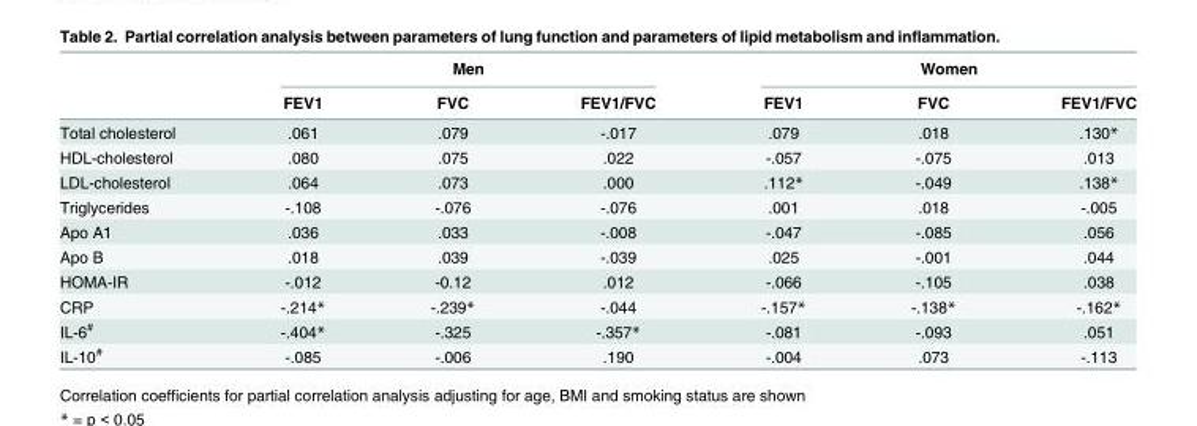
<table><thead><tr><td rowspan="2"></td><td colspan="3">Men</td><td colspan="3">Women</td></tr><tr><td>FEV1</td><td>FVC</td><td>FEV1/FVC</td><td>FEV1</td><td>FVC</td><td>FEV1/FVC</td></tr></thead><tbody><tr><td>Total cholesterol</td><td>.061</td><td>.079</td><td>-.017</td><td>.079</td><td>.018</td><td>.130*</td></tr><tr><td>HDL-cholesterol</td><td>.080</td><td>.075</td><td>.022</td><td>-.057</td><td>-.075</td><td>.013</td></tr><tr><td>LDL-cholesterol</td><td>.064</td><td>.073</td><td>.000</td><td>.112*</td><td>-.049</td><td>.138*</td></tr><tr><td>Triglycerides</td><td>-.108</td><td>-.076</td><td>-.076</td><td>.001</td><td>.018</td><td>-.005</td></tr><tr><td>Apo A1</td><td>.036</td><td>.033</td><td>-.008</td><td>-.047</td><td>-.085</td><td>.056</td></tr><tr><td>Apo B</td><td>.018</td><td>.039</td><td>-.039</td><td>.025</td><td>-.001</td><td>.044</td></tr><tr><td>HOMA-IR</td><td>-.012</td><td>-0.12</td><td>.012</td><td>-.066</td><td>-.105</td><td>.038</td></tr><tr><td>CRP</td><td>-.214*</td><td>-.239*</td><td>-.044</td><td>-.157*</td><td>-.138*</td><td>-.162*</td></tr><tr><td>IL-6<sup>#</sup></td><td>-.404*</td><td>-.325</td><td>-.357*</td><td>-.081</td><td>-.093</td><td>.051</td></tr><tr><td>IL-10<sup>#</sup></td><td>-.085</td><td>-.006</td><td>.190</td><td>-.004</td><td>.073</td><td>-.113</td></tr></tbody></table>